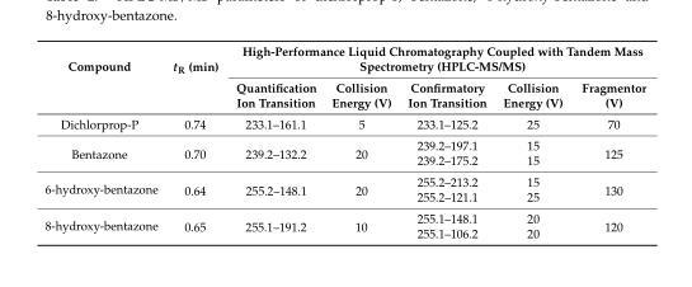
<table><thead><tr><td rowspan="2">Compound</td><td rowspan="2">t<sub>R</sub> (min)</td><td colspan="5">High-Performance Liquid Chromatography Coupled with Tandem Mass Spectrometry (HPLC-MS/MS)</td></tr><tr><td>Quantification Ion Transition</td><td>Collision Energy (V)</td><td>Confirmatory Ion Transition</td><td>Collision Energy (V)</td><td>Fragmentor (V)</td></tr></thead><tbody><tr><td>Dichlorprop-P</td><td>0.74</td><td>233.1–161.1</td><td>5</td><td>233.1–125.2</td><td>25</td><td>70</td></tr><tr><td rowspan="2">Bentazone</td><td rowspan="2">0.70</td><td rowspan="2">239.2–132.2</td><td rowspan="2">20</td><td>239.2–197.1</td><td>15</td><td rowspan="2">125</td></tr><tr><td>239.2–175.2</td><td>15</td></tr><tr><td rowspan="2">6-hydroxy-bentazone</td><td rowspan="2">0.64</td><td rowspan="2">255.2–148.1</td><td rowspan="2">20</td><td>255.2–213.2</td><td>15</td><td rowspan="2">130</td></tr><tr><td>255.2–121.1</td><td>25</td></tr><tr><td rowspan="2">8-hydroxy-bentazone</td><td rowspan="2">0.65</td><td rowspan="2">255.1–191.2</td><td rowspan="2">10</td><td>255.1–148.1</td><td>20</td><td rowspan="2">120</td></tr><tr><td>255.1–106.2</td><td>20</td></tr></tbody></table>